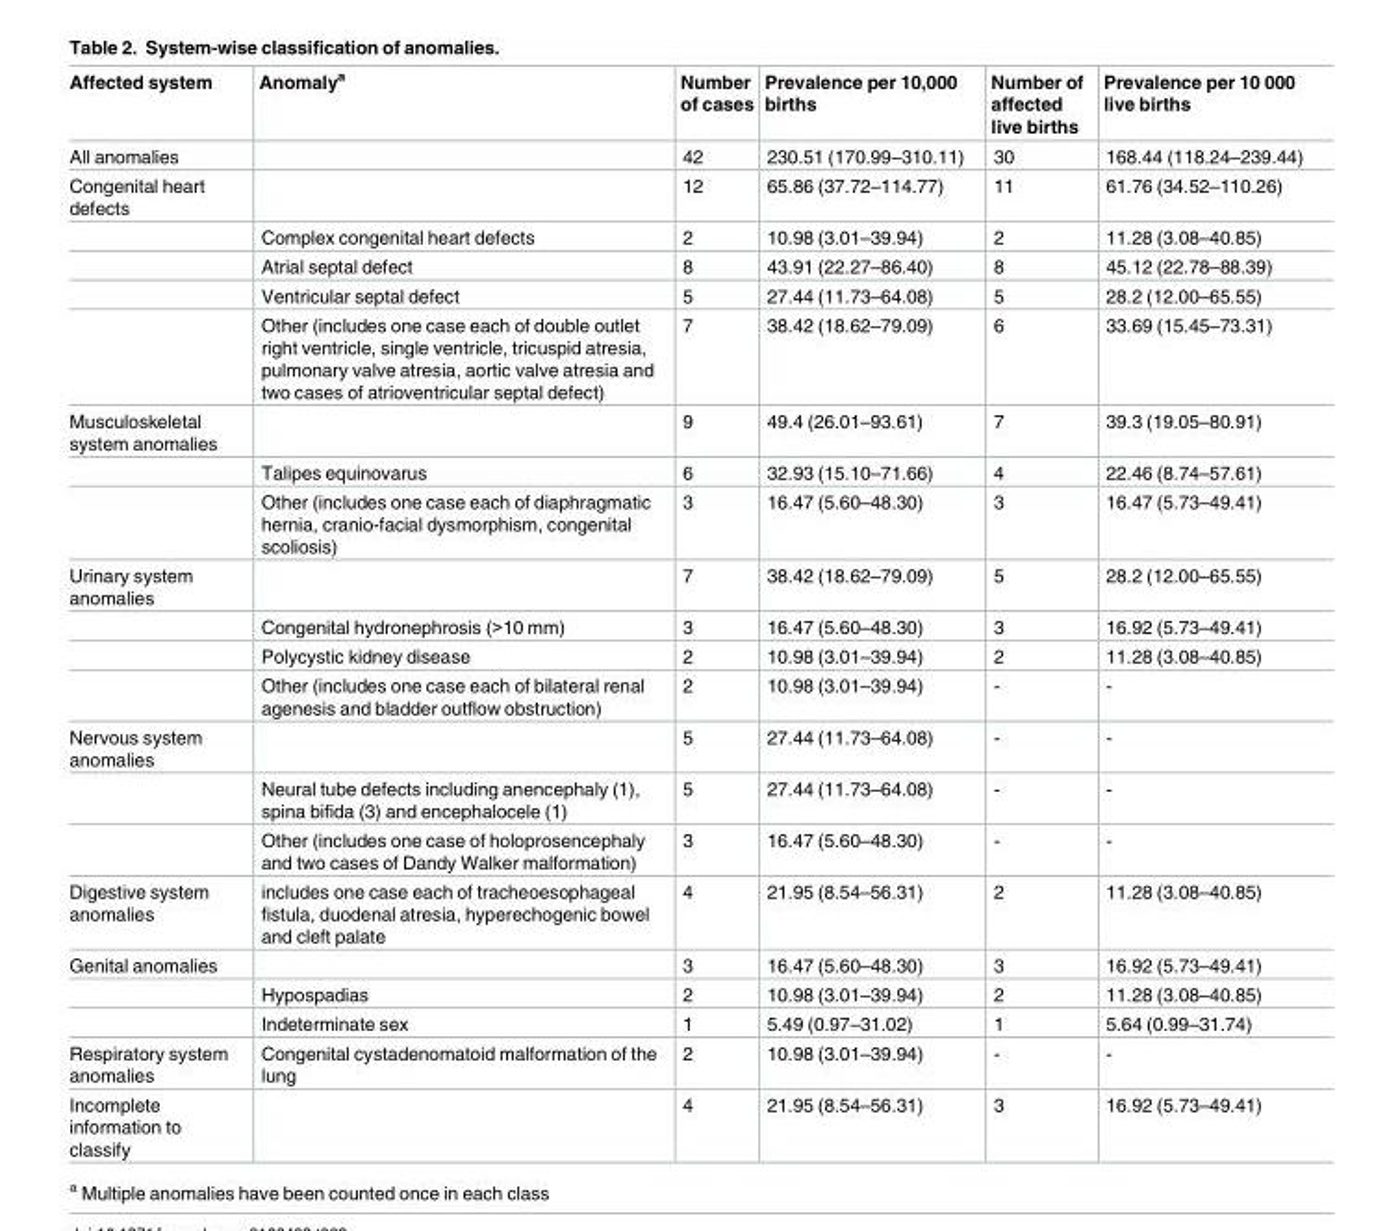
<table><thead><tr><td>Affected system</td><td>Anomaly<sup>a</sup></td><td>Number of cases</td><td>Prevalence per 10,000 births</td><td>Number of affected live births</td><td>Prevalence per 10 000 live births</td></tr></thead><tbody><tr><td>All anomalies</td><td></td><td>42</td><td>230.51 (170.99–310.11)</td><td>30</td><td>168.44 (118.24–239.44)</td></tr><tr><td rowspan="5">Congenital heart defects</td><td></td><td>12</td><td>65.86 (37.72–114.77)</td><td>11</td><td>61.76 (34.52–110.26)</td></tr><tr><td>Complex congenital heart defects</td><td>2</td><td>10.98 (3.01–39.94)</td><td>2</td><td>11.28 (3.08–40.85)</td></tr><tr><td>Atrial septal defect</td><td>8</td><td>43.91 (22.27–86.40)</td><td>8</td><td>45.12 (22.78–88.39)</td></tr><tr><td>Ventricular septal defect</td><td>5</td><td>27.44 (11.73–64.08)</td><td>5</td><td>28.2 (12.00–65.55)</td></tr><tr><td>Other (includes one case each of double outlet right ventricle, single ventricle, tricuspid atresia, pulmonary valve atresia, aortic valve atresia and two cases of atrioventricular septal defect)</td><td>7</td><td>38.42 (18.62–79.09)</td><td>6</td><td>33.69 (15.45–73.31)</td></tr><tr><td rowspan="3">Musculoskeletal system anomalies</td><td></td><td>9</td><td>49.4 (26.01–93.61)</td><td>7</td><td>39.3 (19.05–80.91)</td></tr><tr><td>Talipes equinovarus</td><td>6</td><td>32.93 (15.10–71.66)</td><td>4</td><td>22.46 (8.74–57.61)</td></tr><tr><td>Other (includes one case each of diaphragmatic hernia, cranio-facial dysmorphism, congenital scoliosis)</td><td>3</td><td>16.47 (5.60–48.30)</td><td>3</td><td>16.47 (5.73–49.41)</td></tr><tr><td rowspan="4">Urinary system anomalies</td><td></td><td>7</td><td>38.42 (18.62–79.09)</td><td>5</td><td>28.2 (12.00–65.55)</td></tr><tr><td>Congenital hydronephrosis (&gt;10 mm)</td><td>3</td><td>16.47 (5.60–48.30)</td><td>3</td><td>16.92 (5.73–49.41)</td></tr><tr><td>Polycystic kidney disease</td><td>2</td><td>10.98 (3.01–39.94)</td><td>2</td><td>11.28 (3.08–40.85)</td></tr><tr><td>Other (includes one case each of bilateral renal agenesis and bladder outflow obstruction)</td><td>2</td><td>10.98 (3.01–39.94)</td><td>-</td><td>-</td></tr><tr><td rowspan="3">Nervous system anomalies</td><td></td><td>5</td><td>27.44 (11.73–64.08)</td><td>-</td><td>-</td></tr><tr><td>Neural tube defects including anencephaly (1), spina bifida (3) and encephalocele (1)</td><td>5</td><td>27.44 (11.73–64.08)</td><td>-</td><td>-</td></tr><tr><td>Other (includes one case of holoprosencephaly and two cases of Dandy Walker malformation)</td><td>3</td><td>16.47 (5.60–48.30)</td><td>-</td><td>-</td></tr><tr><td>Digestive system anomalies</td><td>includes one case each of tracheoesophageal fistula, duodenal atresia, hyperechogenic bowel and cleft palate</td><td>4</td><td>21.95 (8.54–56.31)</td><td>2</td><td>11.28 (3.08–40.85)</td></tr><tr><td rowspan="3">Genital anomalies</td><td></td><td>3</td><td>16.47 (5.60–48.30)</td><td>3</td><td>16.92 (5.73–49.41)</td></tr><tr><td>Hypospadias</td><td>2</td><td>10.98 (3.01–39.94)</td><td>2</td><td>11.28 (3.08–40.85)</td></tr><tr><td>Indeterminate sex</td><td>1</td><td>5.49 (0.97–31.02)</td><td>1</td><td>5.64 (0.99–31.74)</td></tr><tr><td>Respiratory system anomalies</td><td>Congenital cystadenomatoid malformation of the lung</td><td>2</td><td>10.98 (3.01–39.94)</td><td>-</td><td>-</td></tr><tr><td>Incomplete information to classify</td><td></td><td>4</td><td>21.95 (8.54–56.31)</td><td>3</td><td>16.92 (5.73–49.41)</td></tr></tbody></table>